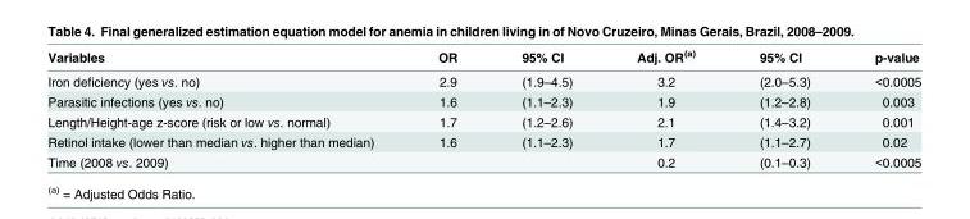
<table><thead><tr><td>Variables</td><td>OR</td><td>95% CI</td><td>Adj. OR<sup>(a)</sup></td><td>95% CI</td><td>p-value</td></tr></thead><tbody><tr><td>Iron deficiency (yes vs. no)</td><td>2.9</td><td>(1.9–4.5)</td><td>3.2</td><td>(2.0–5.3)</td><td>&lt;0.0005</td></tr><tr><td>Parasitic infections (yes vs. no)</td><td>1.6</td><td>(1.1–2.3)</td><td>1.9</td><td>(1.2–2.8)</td><td>0.003</td></tr><tr><td>Length/Height-age z-score (risk or low vs. normal)</td><td>1.7</td><td>(1.2–2.6)</td><td>2.1</td><td>(1.4–3.2)</td><td>0.001</td></tr><tr><td>Retinol intake (lower than median vs. higher than median)</td><td>1.6</td><td>(1.1–2.3)</td><td>1.7</td><td>(1.1–2.7)</td><td>0.02</td></tr><tr><td>Time (2008 vs. 2009)</td><td></td><td></td><td>0.2</td><td>(0.1–0.3)</td><td>&lt;0.0005</td></tr></tbody></table>